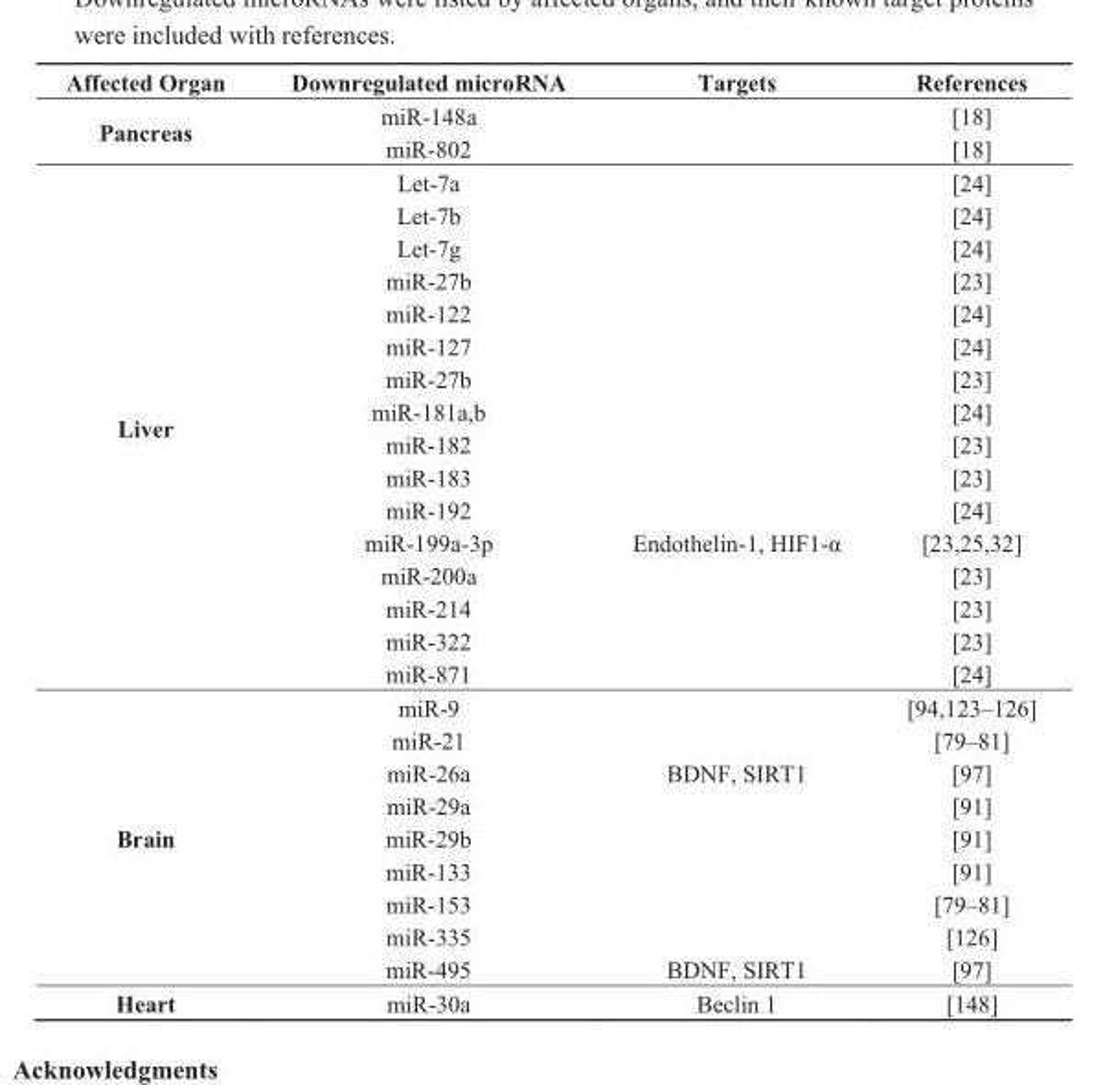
<table><thead><tr><td>Affected Organ</td><td>Downregulated microRNA</td><td>Targets</td><td>References</td></tr></thead><tbody><tr><td rowspan="2">Pancreas</td><td>miR-148a</td><td></td><td>[18]</td></tr><tr><td>miR-802</td><td></td><td>[18]</td></tr><tr><td rowspan="16">Liver</td><td>Let-7a</td><td></td><td>[24]</td></tr><tr><td>Let-7b</td><td></td><td>[24]</td></tr><tr><td>Let-7g</td><td></td><td>[24]</td></tr><tr><td>miR-27b</td><td></td><td>[23]</td></tr><tr><td>miR-122</td><td></td><td>[24]</td></tr><tr><td>miR-127</td><td></td><td>[24]</td></tr><tr><td>miR-27b</td><td></td><td>[23]</td></tr><tr><td>miR-181a,b</td><td></td><td>[24]</td></tr><tr><td>miR-182</td><td></td><td>[23]</td></tr><tr><td>miR-183</td><td></td><td>[23]</td></tr><tr><td>miR-192</td><td></td><td>[24]</td></tr><tr><td>miR-199a-3p</td><td>Endothelin-1, HIF1-α</td><td>[23,25,32]</td></tr><tr><td>miR-200a</td><td></td><td>[23]</td></tr><tr><td>miR-214</td><td></td><td>[23]</td></tr><tr><td>miR-322</td><td></td><td>[23]</td></tr><tr><td>miR-871</td><td></td><td>[24]</td></tr><tr><td rowspan="9">Brain</td><td>miR-9</td><td></td><td>[94,123–126]</td></tr><tr><td>miR-21</td><td></td><td>[79–81]</td></tr><tr><td>miR-26a</td><td>BDNF, SIRT1</td><td>[97]</td></tr><tr><td>miR-29a</td><td></td><td>[91]</td></tr><tr><td>miR-29b</td><td></td><td>[91]</td></tr><tr><td>miR-133</td><td></td><td>[91]</td></tr><tr><td>miR-153</td><td></td><td>[79–81]</td></tr><tr><td>miR-335</td><td></td><td>[126]</td></tr><tr><td>miR-495</td><td>BDNF, SIRT1</td><td>[97]</td></tr><tr><td>Heart</td><td>miR-30a</td><td>Beclin 1</td><td>[148]</td></tr></tbody></table>